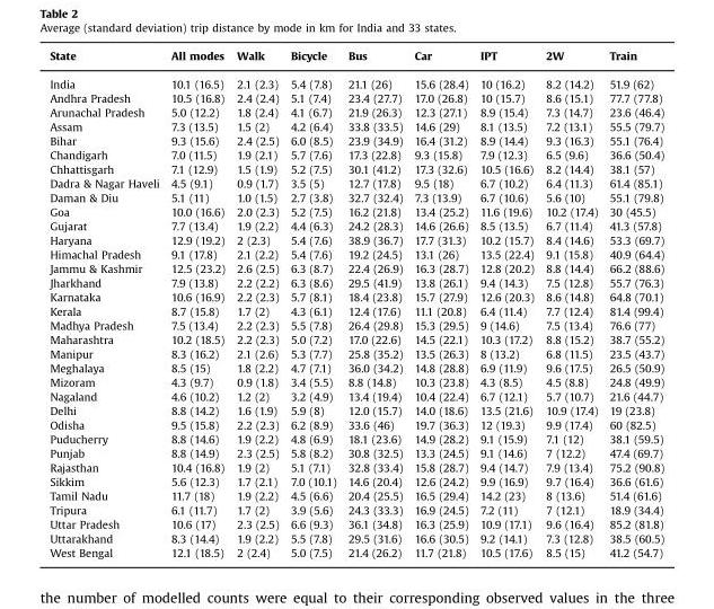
<table><thead><tr><td>State</td><td>All modes</td><td>Walk</td><td>Bicycle</td><td>Bus</td><td>Car</td><td>IPT</td><td>2W</td><td>Train</td></tr></thead><tbody><tr><td>India</td><td>10.1 (16.5)</td><td>2.1 (2.3)</td><td>5.4 (7.8)</td><td>21.1 (26)</td><td>15.6 (28.4)</td><td>10 (16.2)</td><td>8.2 (14.2)</td><td>51.9 (62)</td></tr><tr><td>Andhra Pradesh</td><td>10.5 (16.8)</td><td>2.4 (2.4)</td><td>5.1 (7.4)</td><td>23.4 (27.7)</td><td>17.0 (26.8)</td><td>10 (15.7)</td><td>8.6 (15.1)</td><td>77.7 (77.8)</td></tr><tr><td>Arunachal Pradesh</td><td>5.0 (12.2)</td><td>1.8 (2.4)</td><td>4.1 (6.7)</td><td>21.9 (26.3)</td><td>12.3 (27.1)</td><td>8.9 (15.4)</td><td>7.3 (14.7)</td><td>23.6 (46.4)</td></tr><tr><td>Assam</td><td>7.3 (13.5)</td><td>1.5 (2)</td><td>4.2 (6.4)</td><td>33.8 (33.5)</td><td>14.6 (29)</td><td>8.1 (13.5)</td><td>7.2 (13.1)</td><td>55.5 (79.7)</td></tr><tr><td>Bihar</td><td>9.3 (15.6)</td><td>2.4 (2.5)</td><td>6.0 (8.5)</td><td>23.9 (34.9)</td><td>16.4 (31.2)</td><td>8.9 (14.4)</td><td>9.3 (16.3)</td><td>55.1 (76.4)</td></tr><tr><td>Chandigarh</td><td>7.0 (11.5)</td><td>1.9 (2.1)</td><td>5.7 (7.6)</td><td>17.3 (22.8)</td><td>9.3 (15.8)</td><td>7.9 (12.3)</td><td>6.5 (9.6)</td><td>36.6 (50.4)</td></tr><tr><td>Chhattisgarh</td><td>7.1 (12.9)</td><td>1.5 (1.9)</td><td>5.2 (7.5)</td><td>30.1 (41.2)</td><td>17.3 (32.6)</td><td>10.5 (16.6)</td><td>8.2 (14.4)</td><td>38.1 (57)</td></tr><tr><td>Dadra &amp; Nagar Haveli</td><td>4.5 (9.1)</td><td>0.9 (1.7)</td><td>3.5 (5)</td><td>12.7 (17.8)</td><td>9.5 (18)</td><td>6.7 (10.2)</td><td>6.4 (11.3)</td><td>61.4 (85.1)</td></tr><tr><td>Daman &amp; Diu</td><td>5.1 (11)</td><td>1.0 (1.5)</td><td>2.7 (3.8)</td><td>32.7 (32.4)</td><td>7.3 (13.9)</td><td>6.7 (10.6)</td><td>5.6 (10)</td><td>55.1 (79.8)</td></tr><tr><td>Goa</td><td>10.0 (16.6)</td><td>2.0 (2.3)</td><td>5.2 (7.5)</td><td>16.2 (21.8)</td><td>13.4 (25.2)</td><td>11.6 (19.6)</td><td>10.2 (17.4)</td><td>30 (45.5)</td></tr><tr><td>Gujarat</td><td>7.7 (13.4)</td><td>1.9 (2.2)</td><td>4.4 (6.3)</td><td>24.2 (28.3)</td><td>14.6 (26.6)</td><td>8.5 (13.5)</td><td>6.7 (11.4)</td><td>41.3 (57.8)</td></tr><tr><td>Haryana</td><td>12.9 (19.2)</td><td>2 (2.3)</td><td>5.4 (7.6)</td><td>38.9 (36.7)</td><td>17.7 (31.3)</td><td>10.2 (15.7)</td><td>8.4 (14.6)</td><td>53.3 (69.7)</td></tr><tr><td>Himachal Pradesh</td><td>9.1 (17.8)</td><td>2.1 (2.2)</td><td>5.4 (7.6)</td><td>19.2 (24.5)</td><td>13.1 (26)</td><td>13.5 (22.4)</td><td>9.1 (15.8)</td><td>40.9 (64.4)</td></tr><tr><td>Jammu &amp; Kashmir</td><td>12.5 (23.2)</td><td>2.6 (2.5)</td><td>6.3 (8.7)</td><td>22.4 (26.9)</td><td>16.3 (28.7)</td><td>12.8 (20.2)</td><td>8.8 (14.4)</td><td>66.2 (88.6)</td></tr><tr><td>Jharkhand</td><td>7.9 (13.8)</td><td>2.2 (2.2)</td><td>6.3 (8.6)</td><td>29.5 (41.9)</td><td>13.8 (26.1)</td><td>9.4 (14.3)</td><td>7.5 (12.8)</td><td>55.7 (76.3)</td></tr><tr><td>Karnataka</td><td>10.6 (16.9)</td><td>2.2 (2.3)</td><td>5.7 (8.1)</td><td>18.4 (23.8)</td><td>15.7 (27.9)</td><td>12.6 (20.3)</td><td>8.6 (14.8)</td><td>64.8 (70.1)</td></tr><tr><td>Kerala</td><td>8.7 (15.8)</td><td>1.7 (2)</td><td>4.3 (6.1)</td><td>12.4 (17.6)</td><td>11.1 (20.8)</td><td>6.4 (11.4)</td><td>7.7 (12.4)</td><td>81.4 (99.4)</td></tr><tr><td>Madhya Pradesh</td><td>7.5 (13.4)</td><td>2.2 (2.3)</td><td>5.5 (7.8)</td><td>26.4 (29.8)</td><td>15.3 (29.5)</td><td>9 (14.6)</td><td>7.5 (13.4)</td><td>76.6 (77)</td></tr><tr><td>Maharashtra</td><td>10.2 (18.5)</td><td>2.2 (2.3)</td><td>5.0 (7.2)</td><td>17.0 (22.6)</td><td>14.5 (22.1)</td><td>10.3 (17.2)</td><td>8.8 (15.2)</td><td>38.7 (55.2)</td></tr><tr><td>Manipur</td><td>8.3 (16.2)</td><td>2.1 (2.6)</td><td>5.3 (7.7)</td><td>25.8 (35.2)</td><td>13.5 (26.3)</td><td>8 (13.2)</td><td>6.8 (11.5)</td><td>23.5 (43.7)</td></tr><tr><td>Meghalaya</td><td>8.5 (15)</td><td>1.8 (2.2)</td><td>4.7 (7.1)</td><td>36.0 (34.2)</td><td>14.8 (28.8)</td><td>6.9 (11.9)</td><td>9.6 (17.5)</td><td>26.5 (50.9)</td></tr><tr><td>Mizoram</td><td>4.3 (9.7)</td><td>0.9 (1.8)</td><td>3.4 (5.5)</td><td>8.8 (14.8)</td><td>10.3 (23.8)</td><td>4.3 (8.5)</td><td>4.5 (8.8)</td><td>24.8 (49.9)</td></tr><tr><td>Nagaland</td><td>4.6 (10.2)</td><td>1.2 (2)</td><td>3.2 (4.9)</td><td>13.4 (19.4)</td><td>10.4 (22.4)</td><td>6.7 (12.1)</td><td>5.7 (10.7)</td><td>21.6 (44.7)</td></tr><tr><td>Delhi</td><td>8.8 (14.2)</td><td>1.6 (1.9)</td><td>5.9 (8)</td><td>12.0 (15.7)</td><td>14.0 (18.6)</td><td>13.5 (21.6)</td><td>10.9 (17.4)</td><td>19 (23.8)</td></tr><tr><td>Odisha</td><td>9.5 (15.8)</td><td>2.2 (2.3)</td><td>6.2 (8.9)</td><td>33.6 (46)</td><td>19.7 (36.3)</td><td>12 (19.3)</td><td>9.9 (17.4)</td><td>60 (82.5)</td></tr><tr><td>Puducherry</td><td>8.8 (14.6)</td><td>1.9 (2.2)</td><td>4.8 (6.9)</td><td>18.1 (23.6)</td><td>14.9 (28.2)</td><td>9.1 (15.9)</td><td>7.1 (12)</td><td>38.1 (59.5)</td></tr><tr><td>Punjab</td><td>8.8 (14.9)</td><td>2.3 (2.5)</td><td>5.8 (8.2)</td><td>30.8 (32.5)</td><td>13.3 (24.5)</td><td>9.1 (14.6)</td><td>7 (12.2)</td><td>47.4 (69.7)</td></tr><tr><td>Rajasthan</td><td>10.4 (16.8)</td><td>1.9 (2)</td><td>5.1 (7.1)</td><td>32.8 (33.4)</td><td>15.8 (28.7)</td><td>9.4 (14.7)</td><td>7.9 (13.4)</td><td>75.2 (90.8)</td></tr><tr><td>Sikkim</td><td>5.6 (12.3)</td><td>1.7 (2.1)</td><td>7.0 (10.1)</td><td>14.6 (20.4)</td><td>12.6 (24.2)</td><td>9.9 (16.9)</td><td>9.7 (16.4)</td><td>36.6 (61.6)</td></tr><tr><td>Tamil Nadu</td><td>11.7 (18)</td><td>1.9 (2.2)</td><td>4.5 (6.6)</td><td>20.4 (25.5)</td><td>16.5 (29.4)</td><td>14.2 (23)</td><td>8 (13.6)</td><td>51.4 (61.6)</td></tr><tr><td>Tripura</td><td>6.1 (11.7)</td><td>1.7 (2)</td><td>3.9 (5.6)</td><td>24.3 (33.3)</td><td>16.9 (24.5)</td><td>7.2 (11)</td><td>7 (12.1)</td><td>18.9 (34.4)</td></tr><tr><td>Uttar Pradesh</td><td>10.6 (17)</td><td>2.3 (2.5)</td><td>6.6 (9.3)</td><td>36.1 (34.8)</td><td>16.3 (25.9)</td><td>10.9 (17.1)</td><td>9.6 (16.4)</td><td>85.2 (81.8)</td></tr><tr><td>Uttarakhand</td><td>8.3 (14.4)</td><td>1.9 (2.2)</td><td>5.5 (7.8)</td><td>29.5 (31.6)</td><td>16.6 (30.5)</td><td>9.2 (14.1)</td><td>7.3 (12.8)</td><td>38.5 (60.5)</td></tr><tr><td>West Bengal</td><td>12.1 (18.5)</td><td>2 (2.4)</td><td>5.0 (7.5)</td><td>21.4 (26.2)</td><td>11.7 (21.8)</td><td>10.5 (17.6)</td><td>8.5 (15)</td><td>41.2 (54.7)</td></tr></tbody></table>